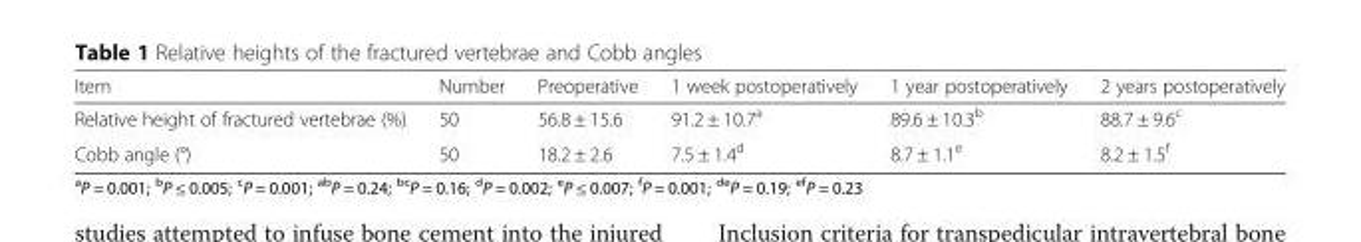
<table><thead><tr><td>Item</td><td>Number</td><td>Preoperative</td><td>1 week postoperatively</td><td>1 year postoperatively</td><td>2 years postoperatively</td></tr></thead><tbody><tr><td>Relative height of fractured vertebrae (%)</td><td>50</td><td>56.8 ± 15.6</td><td>91.2 ± 10.7<sup>a</sup></td><td>89.6 ± 10.3<sup>b</sup></td><td>88.7 ± 9.6<sup>c</sup></td></tr><tr><td>Cobb angle (°)</td><td>50</td><td>18.2 ± 2.6</td><td>7.5 ± 1.4<sup>d</sup></td><td>8.7 ± 1.1<sup>e</sup></td><td>8.2 ± 1.5<sup>f</sup></td></tr></tbody></table>